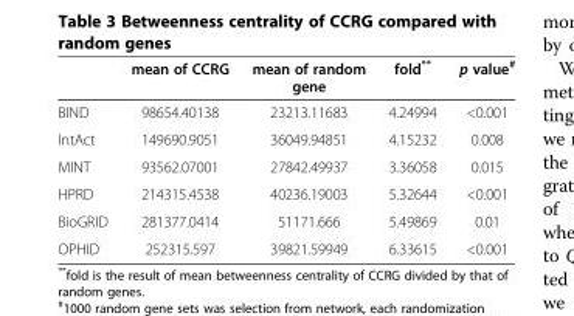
<table><thead><tr><td></td><td>mean of CCRG</td><td>mean of random gene</td><td>fold**</td><td>p value<sup>#</sup></td></tr></thead><tbody><tr><td>BIND</td><td>98654.40138</td><td>23213.11683</td><td>4.24994</td><td>&lt;0.001</td></tr><tr><td>IntAct</td><td>149690.9051</td><td>36049.94851</td><td>4.15232</td><td>0.008</td></tr><tr><td>MINT</td><td>93562.07001</td><td>27842.49937</td><td>3.36058</td><td>0.015</td></tr><tr><td>HPRD</td><td>214315.4538</td><td>40236.19003</td><td>5.32644</td><td>&lt;0.001</td></tr><tr><td>BioGRID</td><td>281377.0414</td><td>51171.666</td><td>5.49869</td><td>0.01</td></tr><tr><td>OPHID</td><td>252315.597</td><td>39821.59949</td><td>6.33615</td><td>&lt;0.001</td></tr></tbody></table>